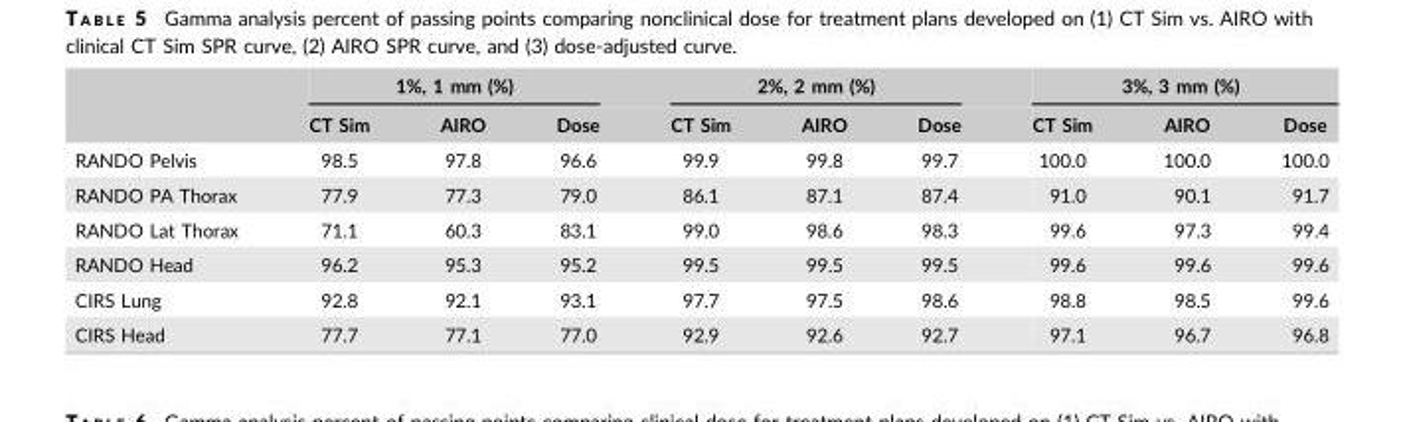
<table><thead><tr><td rowspan="2"></td><td colspan="3">1%, 1 mm (%)</td><td colspan="3">2%, 2 mm (%)</td><td colspan="3">3%, 3 mm (%)</td></tr><tr><td>CT Sim</td><td>AIRO</td><td>Dose</td><td>CT Sim</td><td>AIRO</td><td>Dose</td><td>CT Sim</td><td>AIRO</td><td>Dose</td></tr></thead><tbody><tr><td>RANDO Pelvis</td><td>98.5</td><td>97.8</td><td>96.6</td><td>99.9</td><td>99.8</td><td>99.7</td><td>100.0</td><td>100.0</td><td>100.0</td></tr><tr><td>RANDO PA Thorax</td><td>77.9</td><td>77.3</td><td>79.0</td><td>86.1</td><td>87.1</td><td>87.4</td><td>91.0</td><td>90.1</td><td>91.7</td></tr><tr><td>RANDO Lat Thorax</td><td>71.1</td><td>60.3</td><td>83.1</td><td>99.0</td><td>98.6</td><td>98.3</td><td>99.6</td><td>97.3</td><td>99.4</td></tr><tr><td>RANDO Head</td><td>96.2</td><td>95.3</td><td>95.2</td><td>99.5</td><td>99.5</td><td>99.5</td><td>99.6</td><td>99.6</td><td>99.6</td></tr><tr><td>CIRS Lung</td><td>92.8</td><td>92.1</td><td>93.1</td><td>97.7</td><td>97.5</td><td>98.6</td><td>98.8</td><td>98.5</td><td>99.6</td></tr><tr><td>CIRS Head</td><td>77.7</td><td>77.1</td><td>77.0</td><td>92.9</td><td>92.6</td><td>92.7</td><td>97.1</td><td>96.7</td><td>96.8</td></tr></tbody></table>